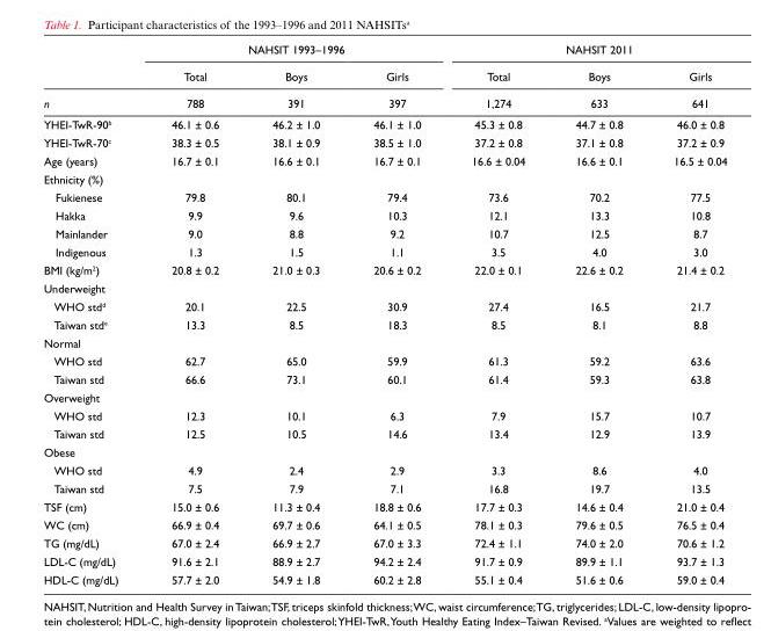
<table><thead><tr><td rowspan="3">n</td><td colspan="3">NAHSIT 1993–1996</td><td colspan="3">NAHSIT 2011</td></tr><tr><td rowspan="2">Total 788</td><td rowspan="2">Boys 391</td><td rowspan="2">Girls 397</td><td rowspan="2">Total 1,274</td><td rowspan="2">Boys 633</td><td rowspan="2">Girls 641</td></tr><tr></tr></thead><tbody><tr><td>YHEI-TwR-90<sup>b</sup></td><td>46.1 ± 0.6</td><td>46.2 ± 1.0</td><td>46.1 ± 1.0</td><td>45.3 ± 0.8</td><td>44.7 ± 0.8</td><td>46.0 ± 0.8</td></tr><tr><td>YHEI-TwR-70<sup>c</sup></td><td>38.3 ± 0.5</td><td>38.1 ± 0.9</td><td>38.5 ± 1.0</td><td>37.2 ± 0.8</td><td>37.1 ± 0.8</td><td>37.2 ± 0.9</td></tr><tr><td>Age (years)</td><td>16.7 ± 0.1</td><td>16.6 ± 0.1</td><td>16.7 ± 0.1</td><td>16.6 ± 0.04</td><td>16.6 ± 0.1</td><td>16.5 ± 0.04</td></tr><tr><td colspan="7">Ethnicity (%)</td></tr><tr><td>Fukienese</td><td>79.8</td><td>80.1</td><td>79.4</td><td>73.6</td><td>70.2</td><td>77.5</td></tr><tr><td>Hakka</td><td>9.9</td><td>9.6</td><td>10.3</td><td>12.1</td><td>13.3</td><td>10.8</td></tr><tr><td>Mainlander</td><td>9.0</td><td>8.8</td><td>9.2</td><td>10.7</td><td>12.5</td><td>8.7</td></tr><tr><td>Indigenous</td><td>1.3</td><td>1.5</td><td>1.1</td><td>3.5</td><td>4.0</td><td>3.0</td></tr><tr><td>BMI (kg/m<sup>2</sup>)</td><td>20.8 ± 0.2</td><td>21.0 ± 0.3</td><td>20.6 ± 0.2</td><td>22.0 ± 0.1</td><td>22.6 ± 0.2</td><td>21.4 ± 0.2</td></tr><tr><td colspan="7">Underweight</td></tr><tr><td>WHO std<sup>d</sup></td><td>20.1</td><td>22.5</td><td>30.9</td><td>27.4</td><td>16.5</td><td>21.7</td></tr><tr><td>Taiwan std<sup>e</sup></td><td>13.3</td><td>8.5</td><td>18.3</td><td>8.5</td><td>8.1</td><td>8.8</td></tr><tr><td colspan="7">Normal</td></tr><tr><td>WHO std</td><td>62.7</td><td>65.0</td><td>59.9</td><td>61.3</td><td>59.2</td><td>63.6</td></tr><tr><td>Taiwan std</td><td>66.6</td><td>73.1</td><td>60.1</td><td>61.4</td><td>59.3</td><td>63.8</td></tr><tr><td colspan="7">Overweight</td></tr><tr><td>WHO std</td><td>12.3</td><td>10.1</td><td>6.3</td><td>7.9</td><td>15.7</td><td>10.7</td></tr><tr><td>Taiwan std</td><td>12.5</td><td>10.5</td><td>14.6</td><td>13.4</td><td>12.9</td><td>13.9</td></tr><tr><td colspan="7">Obese</td></tr><tr><td>WHO std</td><td>4.9</td><td>2.4</td><td>2.9</td><td>3.3</td><td>8.6</td><td>4.0</td></tr><tr><td>Taiwan std</td><td>7.5</td><td>7.9</td><td>7.1</td><td>16.8</td><td>19.7</td><td>13.5</td></tr><tr><td>TSF (cm)</td><td>15.0 ± 0.6</td><td>11.3 ± 0.4</td><td>18.8 ± 0.6</td><td>17.7 ± 0.3</td><td>14.6 ± 0.4</td><td>21.0 ± 0.4</td></tr><tr><td>WC (cm)</td><td>66.9 ± 0.4</td><td>69.7 ± 0.6</td><td>64.1 ± 0.5</td><td>78.1 ± 0.3</td><td>79.6 ± 0.5</td><td>76.5 ± 0.4</td></tr><tr><td>TG (mg/dL)</td><td>67.0 ± 2.4</td><td>66.9 ± 2.7</td><td>67.0 ± 3.3</td><td>72.4 ± 1.1</td><td>74.0 ± 2.0</td><td>70.6 ± 1.2</td></tr><tr><td>LDL-C (mg/dL)</td><td>91.6 ± 2.1</td><td>88.9 ± 2.7</td><td>94.2 ± 2.4</td><td>91.7 ± 0.9</td><td>89.9 ± 1.1</td><td>93.7 ± 1.3</td></tr><tr><td>HDL-C (mg/dL)</td><td>57.7 ± 2.0</td><td>54.9 ± 1.8</td><td>60.2 ± 2.8</td><td>55.1 ± 0.4</td><td>51.6 ± 0.6</td><td>59.0 ± 0.4</td></tr></tbody></table>